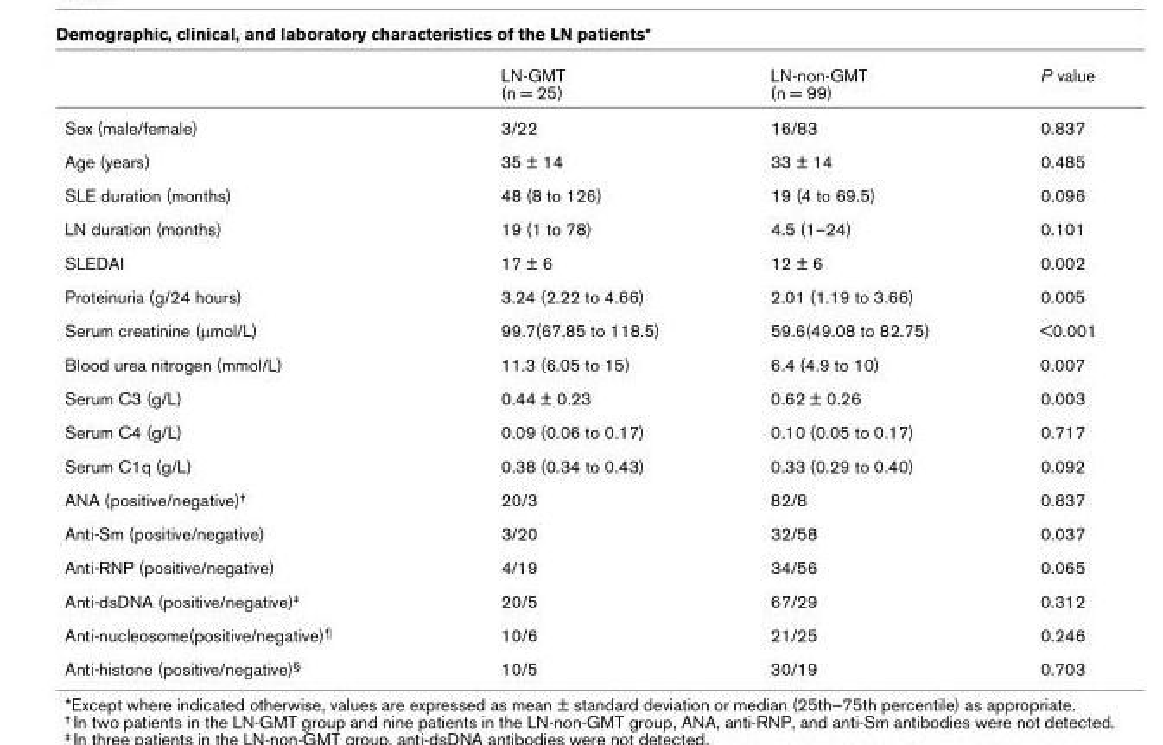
<table><thead><tr><td></td><td>LN-GMT (n = 25)</td><td>LN-non-GMT (n = 99)</td><td>P value</td></tr></thead><tbody><tr><td>Sex (male/female)</td><td>3/22</td><td>16/83</td><td>0.837</td></tr><tr><td>Age (years)</td><td>35 ± 14</td><td>33 ± 14</td><td>0.485</td></tr><tr><td>SLE duration (months)</td><td>48 (8 to 126)</td><td>19 (4 to 69.5)</td><td>0.096</td></tr><tr><td>LN duration (months)</td><td>19 (1 to 78)</td><td>4.5 (1–24)</td><td>0.101</td></tr><tr><td>SLEDAI</td><td>17 ± 6</td><td>12 ± 6</td><td>0.002</td></tr><tr><td>Proteinuria (g/24 hours)</td><td>3.24 (2.22 to 4.66)</td><td>2.01 (1.19 to 3.66)</td><td>0.005</td></tr><tr><td>Serum creatinine (μmol/L)</td><td>99.7(67.85 to 118.5)</td><td>59.6(49.08 to 82.75)</td><td>&lt;0.001</td></tr><tr><td>Blood urea nitrogen (mmol/L)</td><td>11.3 (6.05 to 15)</td><td>6.4 (4.9 to 10)</td><td>0.007</td></tr><tr><td>Serum C3 (g/L)</td><td>0.44 ± 0.23</td><td>0.62 ± 0.26</td><td>0.003</td></tr><tr><td>Serum C4 (g/L)</td><td>0.09 (0.06 to 0.17)</td><td>0.10 (0.05 to 0.17)</td><td>0.717</td></tr><tr><td>Serum C1q (g/L)</td><td>0.38 (0.34 to 0.43)</td><td>0.33 (0.29 to 0.40)</td><td>0.092</td></tr><tr><td>ANA (positive/negative)<sup>†</sup></td><td>20/3</td><td>82/8</td><td>0.837</td></tr><tr><td>Anti-Sm (positive/negative)</td><td>3/20</td><td>32/58</td><td>0.037</td></tr><tr><td>Anti-RNP (positive/negative)</td><td>4/19</td><td>34/56</td><td>0.065</td></tr><tr><td>Anti-dsDNA (positive/negative)<sup>‡</sup></td><td>20/5</td><td>67/29</td><td>0.312</td></tr><tr><td>Anti-nucleosome(positive/negative)<sup>¶</sup></td><td>10/6</td><td>21/25</td><td>0.246</td></tr><tr><td>Anti-histone (positive/negative)<sup>§</sup></td><td>10/5</td><td>30/19</td><td>0.703</td></tr></tbody></table>